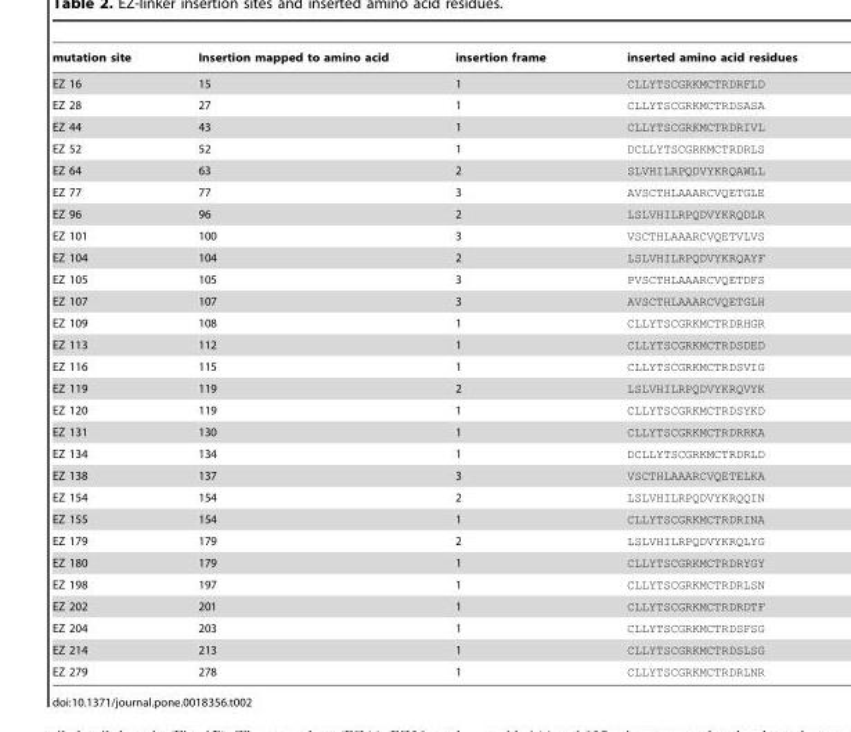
<table><thead><tr><td>mutation site</td><td>Insertion mapped to amino acid</td><td>insertion frame</td><td>inserted amino acid residues</td></tr></thead><tbody><tr><td>EZ 16</td><td>15</td><td>1</td><td>CLLYTSCGRKMCTRDRFLD</td></tr><tr><td>EZ 28</td><td>27</td><td>1</td><td>CLLYTSCGRKMCTRDSASA</td></tr><tr><td>EZ 44</td><td>43</td><td>1</td><td>CLLYTSCGRKMCTRDRIVL</td></tr><tr><td>EZ 52</td><td>52</td><td>1</td><td>DCLLYTSCGRKMCTRDRLS</td></tr><tr><td>EZ 64</td><td>63</td><td>2</td><td>SLVHILRPQDVYKRQAWLL</td></tr><tr><td>EZ 77</td><td>77</td><td>3</td><td>AVSCTHLAAARCVQETGLE</td></tr><tr><td>EZ 96</td><td>96</td><td>2</td><td>LSLVHILRPQDVYKRQDLR</td></tr><tr><td>EZ 101</td><td>100</td><td>3</td><td>VSCTHLAAARCVQETVLVS</td></tr><tr><td>EZ 104</td><td>104</td><td>2</td><td>LSLVHILRPQDVYKRQAYF</td></tr><tr><td>EZ 105</td><td>105</td><td>3</td><td>PVSCTHLAAARCVQETDFS</td></tr><tr><td>EZ 107</td><td>107</td><td>3</td><td>AVSCTHLAAARCVQETGLH</td></tr><tr><td>EZ 109</td><td>108</td><td>1</td><td>CLLYTSCGRKMCTRDRHGR</td></tr><tr><td>EZ 113</td><td>112</td><td>1</td><td>CLLYTSCGRKMCTRDSDED</td></tr><tr><td>EZ 116</td><td>115</td><td>1</td><td>CLLYTSCGRKMCTRDSVIG</td></tr><tr><td>EZ 119</td><td>119</td><td>2</td><td>LSLVHILRPQDVYKRQVYK</td></tr><tr><td>EZ 120</td><td>119</td><td>1</td><td>CLLYTSCGRKMCTRDSYKD</td></tr><tr><td>EZ 131</td><td>130</td><td>1</td><td>CLLYTSCGRKMCTRDRRKA</td></tr><tr><td>EZ 134</td><td>134</td><td>1</td><td>DCLLYTSCGRKMCTRDRLD</td></tr><tr><td>EZ 138</td><td>137</td><td>3</td><td>VSCTHLAAARCVQETELKA</td></tr><tr><td>EZ 154</td><td>154</td><td>2</td><td>LSLVHILRPQDVYKRQQIN</td></tr><tr><td>EZ 155</td><td>154</td><td>1</td><td>CLLYTSCGRKMCTRDRINA</td></tr><tr><td>EZ 179</td><td>179</td><td>2</td><td>LSLVHILRPQDVYKRQLYG</td></tr><tr><td>EZ 180</td><td>179</td><td>1</td><td>CLLYTSCGRKMCTRDRYGY</td></tr><tr><td>EZ 198</td><td>197</td><td>1</td><td>CLLYTSCGRKMCTRDRLSN</td></tr><tr><td>EZ 202</td><td>201</td><td>1</td><td>CLLYTSCGRKMCTRDRDTF</td></tr><tr><td>EZ 204</td><td>203</td><td>1</td><td>CLLYTSCGRKMCTRDSFSG</td></tr><tr><td>EZ 214</td><td>213</td><td>1</td><td>CLLYTSCGRKMCTRDSLSG</td></tr><tr><td>EZ 279</td><td>278</td><td>1</td><td>CLLYTSCGRKMCTRDRLNR</td></tr></tbody></table>